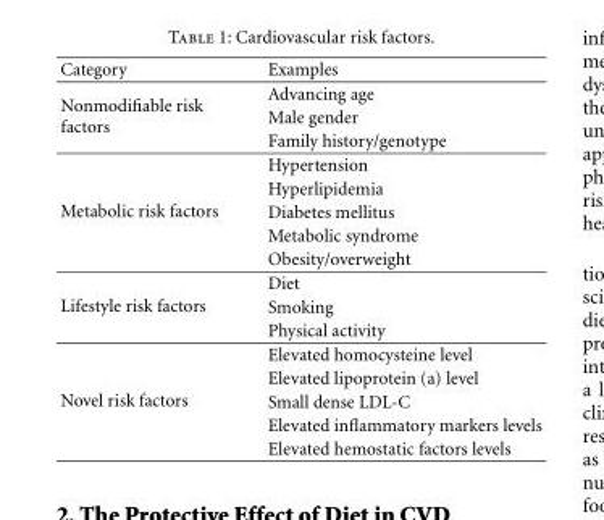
<table><thead><tr><td>Category</td><td>Examples</td></tr></thead><tbody><tr><td rowspan="3">Nonmodifiable risk factors</td><td>Advancing age</td></tr><tr><td>Male gender</td></tr><tr><td>Family history/genotype</td></tr><tr><td rowspan="5">Metabolic risk factors</td><td>Hypertension</td></tr><tr><td>Hyperlipidemia</td></tr><tr><td>Diabetes mellitus</td></tr><tr><td>Metabolic syndrome</td></tr><tr><td>Obesity/overweight</td></tr><tr><td rowspan="3">Lifestyle risk factors</td><td>Diet</td></tr><tr><td>Smoking</td></tr><tr><td>Physical activity</td></tr><tr><td rowspan="5">Novel risk factors</td><td>Elevated homocysteine level</td></tr><tr><td>Elevated lipoprotein (a) level</td></tr><tr><td>Small dense LDL-C</td></tr><tr><td>Elevated inflammatory markers levels</td></tr><tr><td>Elevated hemostatic factors levels</td></tr></tbody></table>